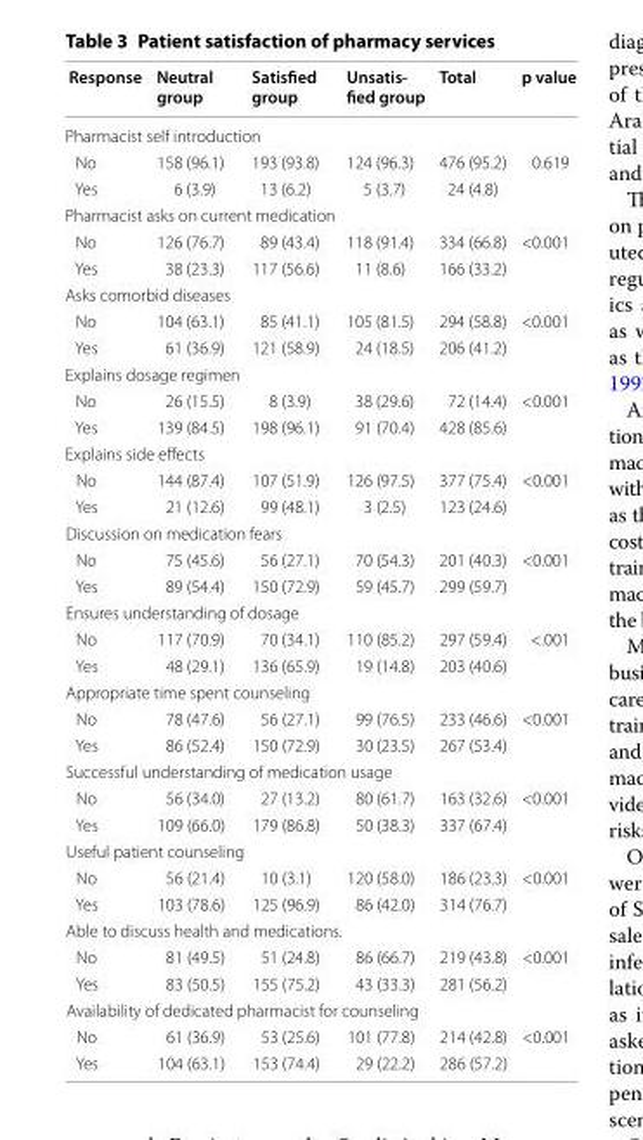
<table><thead><tr><td>Response</td><td>Neutral group</td><td>Satisfied group</td><td>Unsatis- fied group</td><td>Total</td><td>p value</td></tr></thead><tbody><tr><td colspan="6">Pharmacist self introduction</td></tr><tr><td>No</td><td>158 (96.1)</td><td>193 (93.8)</td><td>124 (96.3)</td><td>476 (95.2)</td><td rowspan="2">0.619</td></tr><tr><td>Yes</td><td>6 (3.9)</td><td>13 (6.2)</td><td>5 (3.7)</td><td>24 (4.8)</td></tr><tr><td colspan="6">Pharmacist asks on current medication</td></tr><tr><td>No</td><td>126 (76.7)</td><td>89 (43.4)</td><td>118 (91.4)</td><td>334 (66.8)</td><td rowspan="2">&lt;0.001</td></tr><tr><td>Yes</td><td>38 (23.3)</td><td>117 (56.6)</td><td>11 (8.6)</td><td>166 (33.2)</td></tr><tr><td colspan="6">Asks comorbid diseases</td></tr><tr><td>No</td><td>104 (63.1)</td><td>85 (41.1)</td><td>105 (81.5)</td><td>294 (58.8)</td><td>&lt;0.001</td></tr><tr><td>Yes</td><td>61 (36.9)</td><td>121 (58.9)</td><td>24 (18.5)</td><td>206 (41.2)</td><td></td></tr><tr><td colspan="6">Explains dosage regimen</td></tr><tr><td>No</td><td>26 (15.5)</td><td>8 (3.9)</td><td>38 (29.6)</td><td>72 (14.4)</td><td rowspan="2">&lt;0.001</td></tr><tr><td>Yes</td><td>139 (84.5)</td><td>198 (96.1)</td><td>91 (70.4)</td><td>428 (85.6)</td></tr><tr><td colspan="6">Explains side effects</td></tr><tr><td>No</td><td>144 (87.4)</td><td>107 (51.9)</td><td>126 (97.5)</td><td>377 (75.4)</td><td rowspan="2">&lt;0.001</td></tr><tr><td>Yes</td><td>21 (12.6)</td><td>99 (48.1)</td><td>3 (2.5)</td><td>123 (24.6)</td></tr><tr><td colspan="6">Discussion on medication fears</td></tr><tr><td>No</td><td>75 (45.6)</td><td>56 (27.1)</td><td>70 (54.3)</td><td>201 (40.3)</td><td rowspan="2">&lt;0.001</td></tr><tr><td>Yes</td><td>89 (54.4)</td><td>150 (72.9)</td><td>59 (45.7)</td><td>299 (59.7)</td></tr><tr><td colspan="6">Ensures understanding of dosage</td></tr><tr><td>No</td><td>117 (70.9)</td><td>70 (34.1)</td><td>110 (85.2)</td><td>297 (59.4)</td><td rowspan="2">&lt;.001</td></tr><tr><td>Yes</td><td>48 (29.1)</td><td>136 (65.9)</td><td>19 (14.8)</td><td>203 (40.6)</td></tr><tr><td colspan="6">Appropriate time spent counseling</td></tr><tr><td>No</td><td>78 (47.6)</td><td>56 (27.1)</td><td>99 (76.5)</td><td>233 (46.6)</td><td rowspan="2">&lt;0.001</td></tr><tr><td>Yes</td><td>86 (52.4)</td><td>150 (72.9)</td><td>30 (23.5)</td><td>267 (53.4)</td></tr><tr><td colspan="6">Successful understanding of medication usage</td></tr><tr><td>No</td><td>56 (34.0)</td><td>27 (13.2)</td><td>80 (61.7)</td><td>163 (32.6)</td><td rowspan="2">&lt;0.001</td></tr><tr><td>Yes</td><td>109 (66.0)</td><td>179 (86.8)</td><td>50 (38.3)</td><td>337 (67.4)</td></tr><tr><td colspan="6">Useful patient counseling</td></tr><tr><td>No</td><td>56 (21.4)</td><td>10 (3.1)</td><td>120 (58.0)</td><td>186 (23.3)</td><td rowspan="2">&lt;0.001</td></tr><tr><td>Yes</td><td>103 (78.6)</td><td>125 (96.9)</td><td>86 (42.0)</td><td>314 (76.7)</td></tr><tr><td colspan="6">Able to discuss health and medications.</td></tr><tr><td>No</td><td>81 (49.5)</td><td>51 (24.8)</td><td>86 (66.7)</td><td>219 (43.8)</td><td rowspan="2">&lt;0.001</td></tr><tr><td>Yes</td><td>83 (50.5)</td><td>155 (75.2)</td><td>43 (33.3)</td><td>281 (56.2)</td></tr><tr><td colspan="6">Availability of dedicated pharmacist for counseling</td></tr><tr><td>No</td><td>61 (36.9)</td><td>53 (25.6)</td><td>101 (77.8)</td><td>214 (42.8)</td><td rowspan="2">&lt;0.001</td></tr><tr><td>Yes</td><td>104 (63.1)</td><td>153 (74.4)</td><td>29 (22.2)</td><td>286 (57.2)</td></tr></tbody></table>